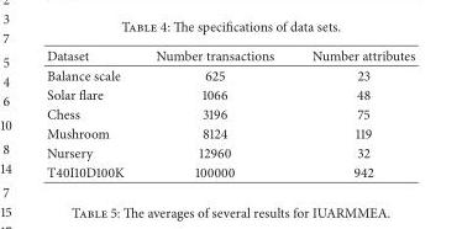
<table><thead><tr><td>Dataset</td><td>Number transactions</td><td>Number attributes</td></tr></thead><tbody><tr><td>Balance scale</td><td>625</td><td>23</td></tr><tr><td>Solar flare</td><td>1066</td><td>48</td></tr><tr><td>Chess</td><td>3196</td><td>75</td></tr><tr><td>Mushroom</td><td>8124</td><td>119</td></tr><tr><td>Nursery</td><td>12960</td><td>32</td></tr><tr><td>T40I10D100K</td><td>100000</td><td>942</td></tr></tbody></table>